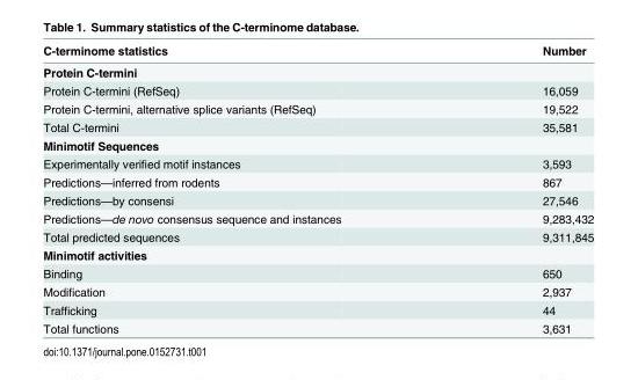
<table><thead><tr><td>C-terminome statistics</td><td>Number</td></tr></thead><tbody><tr><td colspan="2">Protein C-termini</td></tr><tr><td>Protein C-termini (RefSeq)</td><td>16,059</td></tr><tr><td>Protein C-termini, alternative splice variants (RefSeq)</td><td>19,522</td></tr><tr><td>Total C-termini</td><td>35,581</td></tr><tr><td colspan="2">Minimotif Sequences</td></tr><tr><td>Experimentally verified motif instances</td><td>3,593</td></tr><tr><td>Predictions—inferred from rodents</td><td>867</td></tr><tr><td>Predictions—by consensi</td><td>27,546</td></tr><tr><td>Predictions—de novo consensus sequence and instances</td><td>9,283,432</td></tr><tr><td>Total predicted sequences</td><td>9,311,845</td></tr><tr><td colspan="2">Minimotif activities</td></tr><tr><td>Binding</td><td>650</td></tr><tr><td>Modification</td><td>2,937</td></tr><tr><td>Trafficking</td><td>44</td></tr><tr><td>Total functions</td><td>3,631</td></tr></tbody></table>